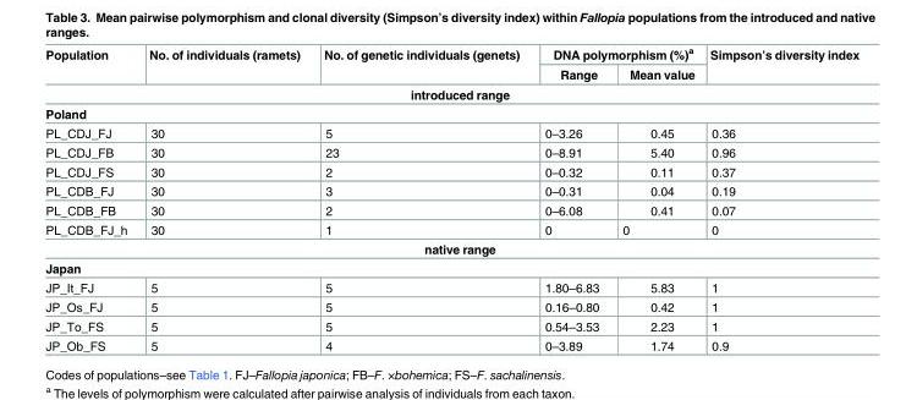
<table><thead><tr><td rowspan="2">Population</td><td rowspan="2">No. of individuals (ramets)</td><td rowspan="2">No. of genetic individuals (genets)</td><td colspan="2">DNA polymorphism (%)<sup>a</sup></td><td rowspan="2">Simpson’s diversity index</td></tr><tr><td>Range</td><td>Mean value</td></tr></thead><tbody><tr><td colspan="6">introduced range</td></tr><tr><td colspan="6">Poland</td></tr><tr><td>PL_CDJ_FJ</td><td>30</td><td>5</td><td>0–3.26</td><td>0.45</td><td>0.36</td></tr><tr><td>PL_CDJ_FB</td><td>30</td><td>23</td><td>0–8.91</td><td>5.40</td><td>0.96</td></tr><tr><td>PL_CDJ_FS</td><td>30</td><td>2</td><td>0–0.32</td><td>0.11</td><td>0.37</td></tr><tr><td>PL_CDB_FJ</td><td>30</td><td>3</td><td>0–0.31</td><td>0.04</td><td>0.19</td></tr><tr><td>PL_CDB_FB</td><td>30</td><td>2</td><td>0–6.08</td><td>0.41</td><td>0.07</td></tr><tr><td>PL_CDB_FJ_h</td><td>30</td><td>1</td><td>0</td><td>0</td><td>0</td></tr><tr><td colspan="6">native range</td></tr><tr><td colspan="6">Japan</td></tr><tr><td>JP_It_FJ</td><td>5</td><td>5</td><td>1.80–6.83</td><td>5.83</td><td>1</td></tr><tr><td>JP_Os_FJ</td><td>5</td><td>5</td><td>0.16–0.80</td><td>0.42</td><td>1</td></tr><tr><td>JP_To_FS</td><td>5</td><td>5</td><td>0.54–3.53</td><td>2.23</td><td>1</td></tr><tr><td>JP_Ob_FS</td><td>5</td><td>4</td><td>0–3.89</td><td>1.74</td><td>0.9</td></tr></tbody></table>